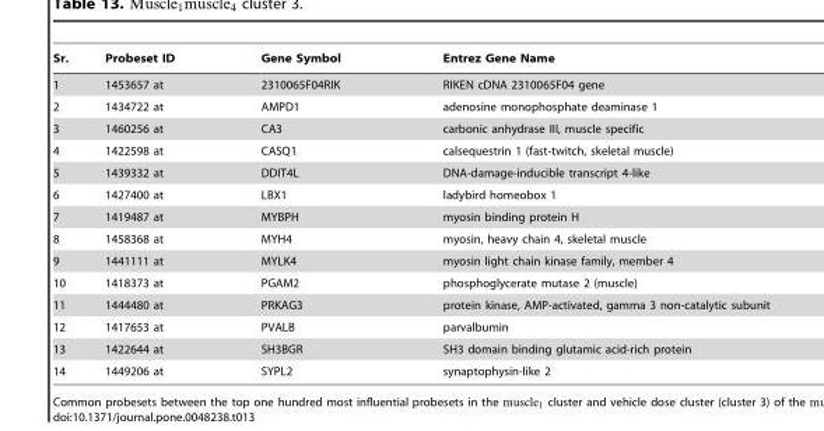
<table><thead><tr><td>Sr.</td><td>Probeset ID</td><td>Gene Symbol</td><td>Entrez Gene Name</td></tr></thead><tbody><tr><td>1</td><td>1453657 at</td><td>2310065F04RIK</td><td>RIKEN cDNA 2310065F04 gene</td></tr><tr><td>2</td><td>1434722 at</td><td>AMPD1</td><td>adenosine monophosphate deaminase 1</td></tr><tr><td>3</td><td>1460256 at</td><td>CA3</td><td>carbonic anhydrase III, muscle specific</td></tr><tr><td>4</td><td>1422598 at</td><td>CASQ1</td><td>calsequestrin 1 (fast-twitch, skeletal muscle)</td></tr><tr><td>5</td><td>1439332 at</td><td>DDIT4L</td><td>DNA-damage-inducible transcript 4-like</td></tr><tr><td>6</td><td>1427400 at</td><td>LBX1</td><td>ladybird homeobox 1</td></tr><tr><td>7</td><td>1419487 at</td><td>MYBPH</td><td>myosin binding protein H</td></tr><tr><td>8</td><td>1458368 at</td><td>MYH4</td><td>myosin, heavy chain 4, skeletal muscle</td></tr><tr><td>9</td><td>1441111 at</td><td>MYLK4</td><td>myosin light chain kinase family, member 4</td></tr><tr><td>10</td><td>1418373 at</td><td>PGAM2</td><td>phosphoglycerate mutase 2 (muscle)</td></tr><tr><td>11</td><td>1444480 at</td><td>PRKAG3</td><td>protein kinase, AMP-activated, gamma 3 non-catalytic subunit</td></tr><tr><td>12</td><td>1417653 at</td><td>PVALB</td><td>parvalbumin</td></tr><tr><td>13</td><td>1422644 at</td><td>SH3BGR</td><td>SH3 domain binding glutamic acid-rich protein</td></tr><tr><td>14</td><td>1449206 at</td><td>SYPL2</td><td>synaptophysin-like 2</td></tr></tbody></table>